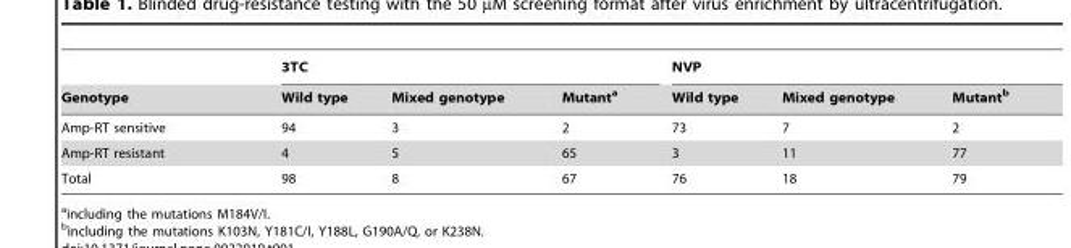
<table><thead><tr><td rowspan="2">Genotype</td><td colspan="3">3TC</td><td colspan="3">NVP</td></tr><tr><td>Wild type</td><td>Mixed genotype</td><td>Mutant<sup>a</sup></td><td>Wild type</td><td>Mixed genotype</td><td>Mutant<sup>b</sup></td></tr></thead><tbody><tr><td>Amp-RT sensitive</td><td>94</td><td>3</td><td>2</td><td>73</td><td>7</td><td>2</td></tr><tr><td>Amp-RT resistant</td><td>4</td><td>5</td><td>65</td><td>3</td><td>11</td><td>77</td></tr><tr><td>Total</td><td>98</td><td>8</td><td>67</td><td>76</td><td>18</td><td>79</td></tr></tbody></table>